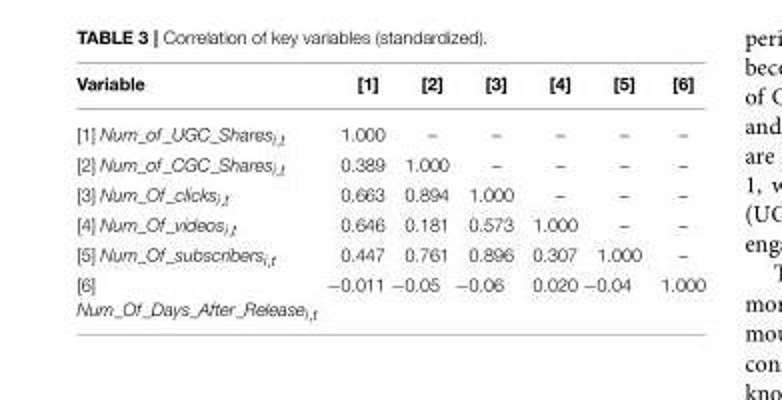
<table><thead><tr><td>Variable</td><td>[1]</td><td>[2]</td><td>[3]</td><td>[4]</td><td>[5]</td><td>[6]</td></tr></thead><tbody><tr><td>[1] Num_of_UGC_Shares<sub>i,t</sub></td><td>1.000</td><td>–</td><td>–</td><td>–</td><td>–</td><td>–</td></tr><tr><td>[2] Num_of_CGC_Shares<sub>i,t</sub></td><td>0.389</td><td>1.000</td><td>–</td><td>–</td><td>–</td><td>–</td></tr><tr><td>[3] Num_Of_clicks<sub>i,t</sub></td><td>0.663</td><td>0.894</td><td>1.000</td><td>–</td><td>–</td><td>–</td></tr><tr><td>[4] Num_Of_videos<sub>i,t</sub></td><td>0.646</td><td>0.181</td><td>0.573</td><td>1.000</td><td>–</td><td>–</td></tr><tr><td>[5] Num_Of_subscribers<sub>i,t</sub></td><td>0.447</td><td>0.761</td><td>0.896</td><td>0.307</td><td>1.000</td><td>–</td></tr><tr><td>[6] Num_Of_Days_After_Release<sub>i,t</sub></td><td>−0.011</td><td>−0.05</td><td>−0.06</td><td>0.020</td><td>−0.04</td><td>1.000</td></tr></tbody></table>